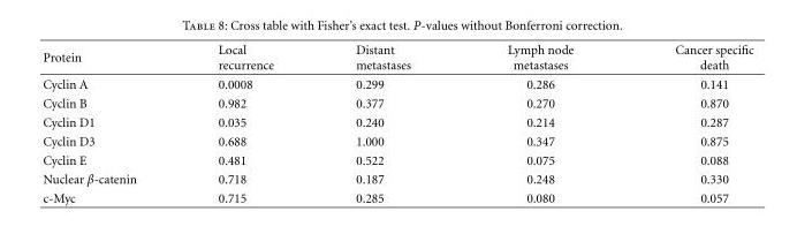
<table><thead><tr><td>Protein</td><td>Local recurrence</td><td>Distant metastases</td><td>Lymph node metastases</td><td>Cancer specific death</td></tr></thead><tbody><tr><td>Cyclin A</td><td>0.0008</td><td>0.299</td><td>0.286</td><td>0.141</td></tr><tr><td>Cyclin B</td><td>0.982</td><td>0.377</td><td>0.270</td><td>0.870</td></tr><tr><td>Cyclin D1</td><td>0.035</td><td>0.240</td><td>0.214</td><td>0.287</td></tr><tr><td>Cyclin D3</td><td>0.688</td><td>1.000</td><td>0.347</td><td>0.875</td></tr><tr><td>Cyclin E</td><td>0.481</td><td>0.522</td><td>0.075</td><td>0.088</td></tr><tr><td>Nuclear β-catenin</td><td>0.718</td><td>0.187</td><td>0.248</td><td>0.330</td></tr><tr><td>c-Myc</td><td>0.715</td><td>0.285</td><td>0.080</td><td>0.057</td></tr></tbody></table>